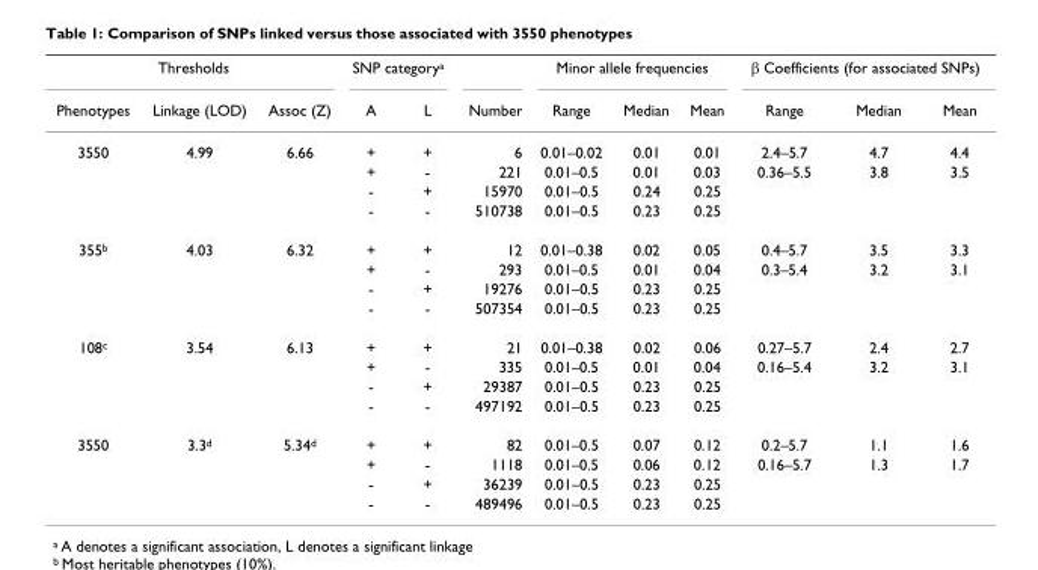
<table><thead><tr><td colspan="3">Thresholds</td><td colspan="2">SNP category<sup>a</sup></td><td rowspan="2">Number</td><td colspan="3">Minor allele frequencies</td><td colspan="3">β Coefficients (for associated SNPs)</td></tr><tr><td>Phenotypes</td><td>Linkage (LOD)</td><td>Assoc (Z)</td><td>A</td><td>L</td><td>Range</td><td>Median</td><td>Mean</td><td>Range</td><td>Median</td><td>Mean</td></tr></thead><tbody><tr><td rowspan="4">3550</td><td>4.99</td><td>6.66</td><td>+</td><td>+</td><td>6</td><td>0.01–0.02</td><td>0.01</td><td>0.01</td><td>2.4–5.7</td><td>4.7</td><td>4.4</td></tr><tr><td></td><td></td><td>+</td><td>-</td><td>221</td><td>0.01–0.5</td><td>0.01</td><td>0.03</td><td>0.36–5.5</td><td>3.8</td><td>3.5</td></tr><tr><td></td><td></td><td>-</td><td>+</td><td>15970</td><td>0.01–0.5</td><td>0.24</td><td>0.25</td><td></td><td></td><td></td></tr><tr><td></td><td></td><td>-</td><td>-</td><td>510738</td><td>0.01–0.5</td><td>0.23</td><td>0.25</td><td></td><td></td><td></td></tr><tr><td rowspan="4">355<sup>b</sup></td><td>4.03</td><td>6.32</td><td>+</td><td>+</td><td>12</td><td>0.01–0.38</td><td>0.02</td><td>0.05</td><td>0.4–5.7</td><td>3.5</td><td>3.3</td></tr><tr><td></td><td></td><td>+</td><td>-</td><td>293</td><td>0.01–0.5</td><td>0.01</td><td>0.04</td><td>0.3–5.4</td><td>3.2</td><td>3.1</td></tr><tr><td></td><td></td><td>-</td><td>+</td><td>19276</td><td>0.01–0.5</td><td>0.23</td><td>0.25</td><td></td><td></td><td></td></tr><tr><td></td><td></td><td>-</td><td>-</td><td>507354</td><td>0.01–0.5</td><td>0.23</td><td>0.25</td><td></td><td></td><td></td></tr><tr><td rowspan="4">108<sup>c</sup></td><td>3.54</td><td>6.13</td><td>+</td><td>+</td><td>21</td><td>0.01–0.38</td><td>0.02</td><td>0.06</td><td>0.27–5.7</td><td>2.4</td><td>2.7</td></tr><tr><td></td><td></td><td>+</td><td>-</td><td>335</td><td>0.01–0.5</td><td>0.01</td><td>0.04</td><td>0.16–5.4</td><td>3.2</td><td>3.1</td></tr><tr><td></td><td></td><td>-</td><td>+</td><td>29387</td><td>0.01–0.5</td><td>0.23</td><td>0.25</td><td></td><td></td><td></td></tr><tr><td></td><td></td><td>-</td><td>-</td><td>497192</td><td>0.01–0.5</td><td>0.23</td><td>0.25</td><td></td><td></td><td></td></tr><tr><td rowspan="4">3550</td><td>3.3<sup>d</sup></td><td>5.34<sup>d</sup></td><td>+</td><td>+</td><td>82</td><td>0.01–0.5</td><td>0.07</td><td>0.12</td><td>0.2–5.7</td><td>1.1</td><td>1.6</td></tr><tr><td></td><td></td><td>+</td><td>-</td><td>1118</td><td>0.01–0.5</td><td>0.06</td><td>0.12</td><td>0.16–5.7</td><td>1.3</td><td>1.7</td></tr><tr><td></td><td></td><td>-</td><td>+</td><td>36239</td><td>0.01–0.5</td><td>0.23</td><td>0.25</td><td></td><td></td><td></td></tr><tr><td></td><td></td><td>-</td><td>-</td><td>489496</td><td>0.01–0.5</td><td>0.23</td><td>0.25</td><td></td><td></td><td></td></tr></tbody></table>